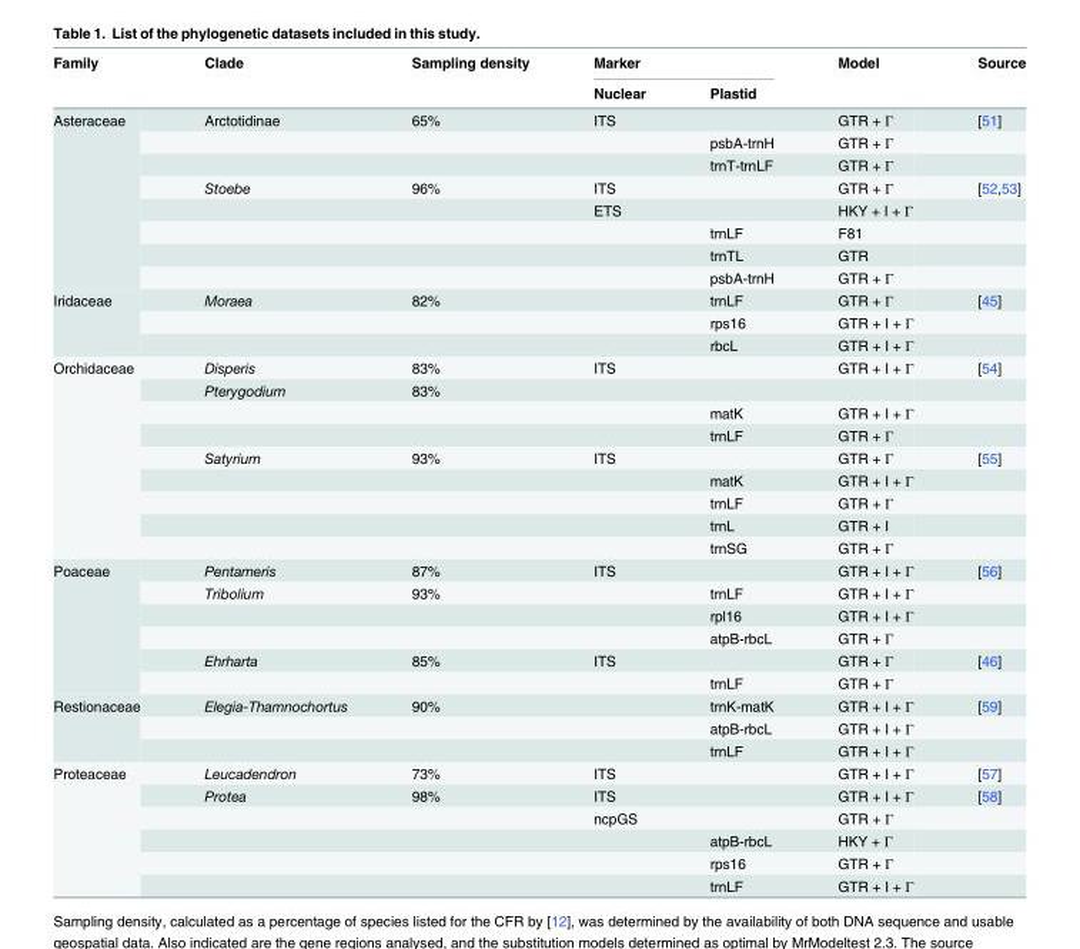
<table><thead><tr><td rowspan="2">Family</td><td rowspan="2">Clade</td><td rowspan="2">Sampling density</td><td colspan="2">Marker</td><td rowspan="2">Model</td><td rowspan="2">Source</td></tr><tr><td>Nuclear</td><td>Plastid</td></tr></thead><tbody><tr><td rowspan="8">Asteraceae</td><td>Arctotidinae</td><td>65%</td><td>ITS</td><td></td><td>GTR + Γ</td><td>[51]</td></tr><tr><td></td><td></td><td></td><td>psbA-trnH</td><td>GTR + Γ</td><td></td></tr><tr><td></td><td></td><td></td><td>trnT-trnLF</td><td>GTR + Γ</td><td></td></tr><tr><td>Stoebe</td><td>96%</td><td>ITS</td><td></td><td>GTR + Γ</td><td>[52,53]</td></tr><tr><td></td><td></td><td>ETS</td><td></td><td>HKY + I + Γ</td><td></td></tr><tr><td></td><td></td><td></td><td>trnLF</td><td>F81</td><td></td></tr><tr><td></td><td></td><td></td><td>trnTL</td><td>GTR</td><td></td></tr><tr><td></td><td></td><td></td><td>psbA-trnH</td><td>GTR + Γ</td><td></td></tr><tr><td rowspan="3">Iridaceae</td><td>Moraea</td><td>82%</td><td></td><td>trnLF</td><td>GTR + Γ</td><td>[45]</td></tr><tr><td></td><td></td><td></td><td>rps16</td><td>GTR + I + Γ</td><td></td></tr><tr><td></td><td></td><td></td><td>rbcL</td><td>GTR + I + Γ</td><td></td></tr><tr><td rowspan="9">Orchidaceae</td><td>Disperis</td><td>83%</td><td>ITS</td><td></td><td>GTR + I + Γ</td><td>[54]</td></tr><tr><td>Pterygodium</td><td>83%</td><td></td><td></td><td></td><td></td></tr><tr><td></td><td></td><td></td><td>matK</td><td>GTR + I + Γ</td><td></td></tr><tr><td></td><td></td><td></td><td>trnLF</td><td>GTR + Γ</td><td></td></tr><tr><td>Satyrium</td><td>93%</td><td>ITS</td><td></td><td>GTR + Γ</td><td>[55]</td></tr><tr><td></td><td></td><td></td><td>matK</td><td>GTR + I + Γ</td><td></td></tr><tr><td></td><td></td><td></td><td>trnLF</td><td>GTR + Γ</td><td></td></tr><tr><td></td><td></td><td></td><td>trnL</td><td>GTR + I</td><td></td></tr><tr><td></td><td></td><td></td><td>trnSG</td><td>GTR + Γ</td><td></td></tr><tr><td rowspan="6">Poaceae</td><td>Pentameris</td><td>87%</td><td>ITS</td><td></td><td>GTR + I + Γ</td><td>[56]</td></tr><tr><td>Tribolium</td><td>93%</td><td></td><td>trnLF</td><td>GTR + I + Γ</td><td></td></tr><tr><td></td><td></td><td></td><td>rpl16</td><td>GTR + I + Γ</td><td></td></tr><tr><td></td><td></td><td></td><td>atpB-rbcL</td><td>GTR + Γ</td><td></td></tr><tr><td>Ehrharta</td><td>85%</td><td>ITS</td><td></td><td>GTR + Γ</td><td>[46]</td></tr><tr><td></td><td></td><td></td><td>trnLF</td><td>GTR + Γ</td><td></td></tr><tr><td rowspan="3">Restionaceae</td><td>Elegia-Thamnochortus</td><td>90%</td><td></td><td>trnK-matK</td><td>GTR + I + Γ</td><td>[59]</td></tr><tr><td></td><td></td><td></td><td>atpB-rbcL</td><td>GTR + I + Γ</td><td></td></tr><tr><td></td><td></td><td></td><td>trnLF</td><td>GTR + I + Γ</td><td></td></tr><tr><td rowspan="6">Proteaceae</td><td>Leucadendron</td><td>73%</td><td>ITS</td><td></td><td>GTR + I + Γ</td><td>[57]</td></tr><tr><td>Protea</td><td>98%</td><td>ITS</td><td></td><td>GTR + I + Γ</td><td>[58]</td></tr><tr><td></td><td></td><td>ncpGS</td><td></td><td>GTR + Γ</td><td></td></tr><tr><td></td><td></td><td></td><td>atpB-rbcL</td><td>HKY + Γ</td><td></td></tr><tr><td></td><td></td><td></td><td>rps16</td><td>GTR + Γ</td><td></td></tr><tr><td></td><td></td><td></td><td>trnLF</td><td>GTR + I + Γ</td><td></td></tr></tbody></table>